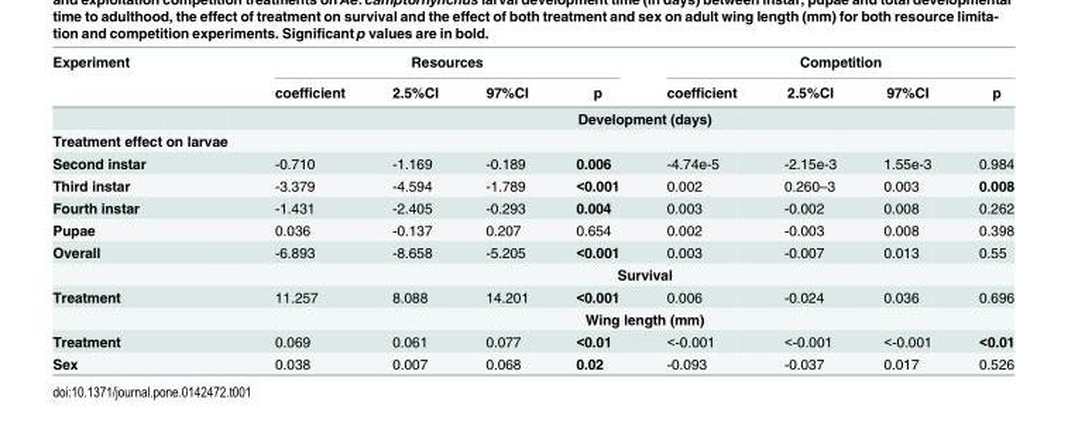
<table><thead><tr><td rowspan="2">Experiment</td><td colspan="4">Resources</td><td colspan="4">Competition</td></tr><tr><td>coefficient</td><td>2.5%CI</td><td>97%CI</td><td>p</td><td>coefficient</td><td>2.5%CI</td><td>97%CI</td><td>p</td></tr></thead><tbody><tr><td></td><td colspan="8">Development (days)</td></tr><tr><td colspan="9">Treatment effect on larvae</td></tr><tr><td>Second instar</td><td>-0.710</td><td>-1.169</td><td>-0.189</td><td>0.006</td><td>-4.74e-5</td><td>-2.15e-3</td><td>1.55e-3</td><td>0.984</td></tr><tr><td>Third instar</td><td>-3.379</td><td>-4.594</td><td>-1.789</td><td>&lt;0.001</td><td>0.002</td><td>0.260–3</td><td>0.003</td><td>0.008</td></tr><tr><td>Fourth instar</td><td>-1.431</td><td>-2.405</td><td>-0.293</td><td>0.004</td><td>0.003</td><td>-0.002</td><td>0.008</td><td>0.262</td></tr><tr><td>Pupae</td><td>0.036</td><td>-0.137</td><td>0.207</td><td>0.654</td><td>0.002</td><td>-0.003</td><td>0.008</td><td>0.398</td></tr><tr><td rowspan="2">Overall</td><td>-6.893</td><td>-8.658</td><td>-5.205</td><td>&lt;0.001</td><td>0.003</td><td>-0.007</td><td>0.013</td><td>0.55</td></tr><tr><td colspan="8">Survival</td></tr><tr><td rowspan="2">Treatment</td><td>11.257</td><td>8.088</td><td>14.201</td><td>&lt;0.001</td><td>0.006</td><td>-0.024</td><td>0.036</td><td>0.696</td></tr><tr><td colspan="8">Wing length (mm)</td></tr><tr><td>Treatment</td><td>0.069</td><td>0.061</td><td>0.077</td><td>&lt;0.01</td><td>&lt;-0.001</td><td>&lt;-0.001</td><td>&lt;-0.001</td><td>&lt;0.01</td></tr><tr><td>Sex</td><td>0.038</td><td>0.007</td><td>0.068</td><td>0.02</td><td>-0.093</td><td>-0.037</td><td>0.017</td><td>0.526</td></tr></tbody></table>